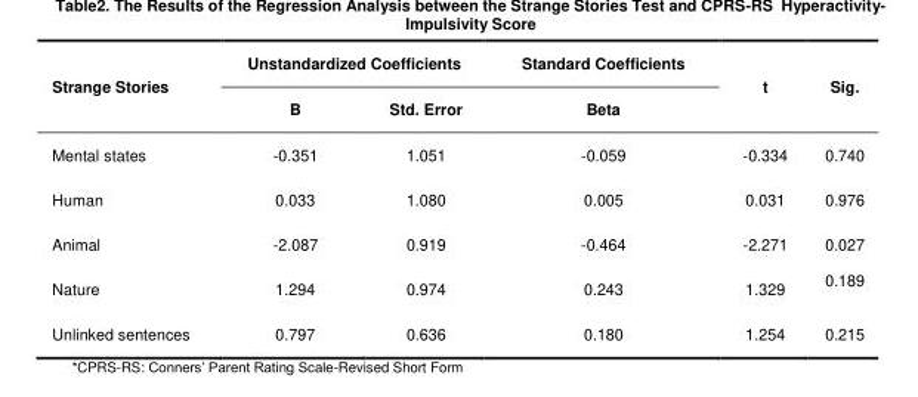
<table><thead><tr><td rowspan="2">Strange Stories</td><td colspan="2">Unstandardized Coefficients</td><td rowspan="2">Standard Coefficients Beta</td><td rowspan="2">t</td><td rowspan="2">Sig.</td></tr><tr><td>B</td><td>Std. Error</td></tr></thead><tbody><tr><td>Mental states</td><td>-0.351</td><td>1.051</td><td>-0.059</td><td>-0.334</td><td>0.740</td></tr><tr><td>Human</td><td>0.033</td><td>1.080</td><td>0.005</td><td>0.031</td><td>0.976</td></tr><tr><td>Animal</td><td>-2.087</td><td>0.919</td><td>-0.464</td><td>-2.271</td><td>0.027</td></tr><tr><td>Nature</td><td>1.294</td><td>0.974</td><td>0.243</td><td>1.329</td><td>0.189</td></tr><tr><td>Unlinked sentences</td><td>0.797</td><td>0.636</td><td>0.180</td><td>1.254</td><td>0.215</td></tr></tbody></table>